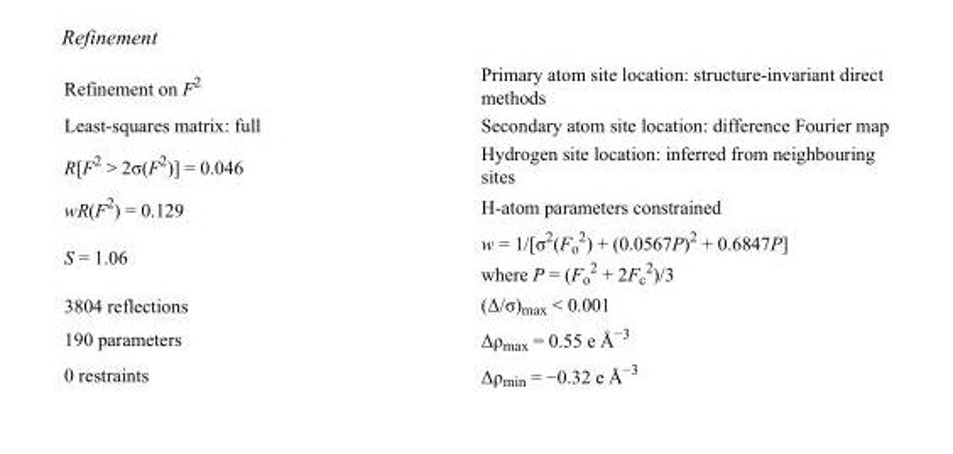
<table><tbody><tr><td>Refinement on F<sup>2</sup></td><td>Primary atom site location: structure-invariant direct methods</td></tr><tr><td>Least-squares matrix: full</td><td>Secondary atom site location: difference Fourier map</td></tr><tr><td>R[F<sup>2</sup> &gt; 2σ(F<sup>2</sup>)] = 0.046</td><td>Hydrogen site location: inferred from neighbouring sites</td></tr><tr><td>wR(F<sup>2</sup>) = 0.129</td><td>H-atom parameters constrained</td></tr><tr><td>S = 1.06</td><td>w = 1/[σ<sup>2</sup>(F<sub>o</sub> <sup>2</sup>) + (0.0567P)<sup>2</sup> + 0.6847P] where P = (F<sub>o</sub> <sup>2</sup> + 2F<sub>c</sub> <sup>2</sup>)/3</td></tr><tr><td>3804 reflections</td><td>(Δ/σ)<sub>max</sub> &lt; 0.001</td></tr><tr><td>190 parameters</td><td>Δρ<sub>max</sub> = 0.55 e Å<sup>−3</sup></td></tr><tr><td>0 restraints</td><td>Δρ<sub>min</sub> = −0.32 e Å<sup>−3</sup></td></tr></tbody></table>